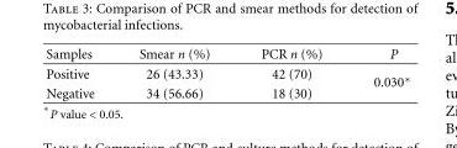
<table><thead><tr><td>Samples</td><td>Smear n (%)</td><td>PCR n (%)</td><td>P</td></tr></thead><tbody><tr><td>Positive</td><td>26 (43.33)</td><td>42 (70)</td><td rowspan="2">0.030∗</td></tr><tr><td>Negative</td><td>34 (56.66)</td><td>18 (30)</td></tr></tbody></table>